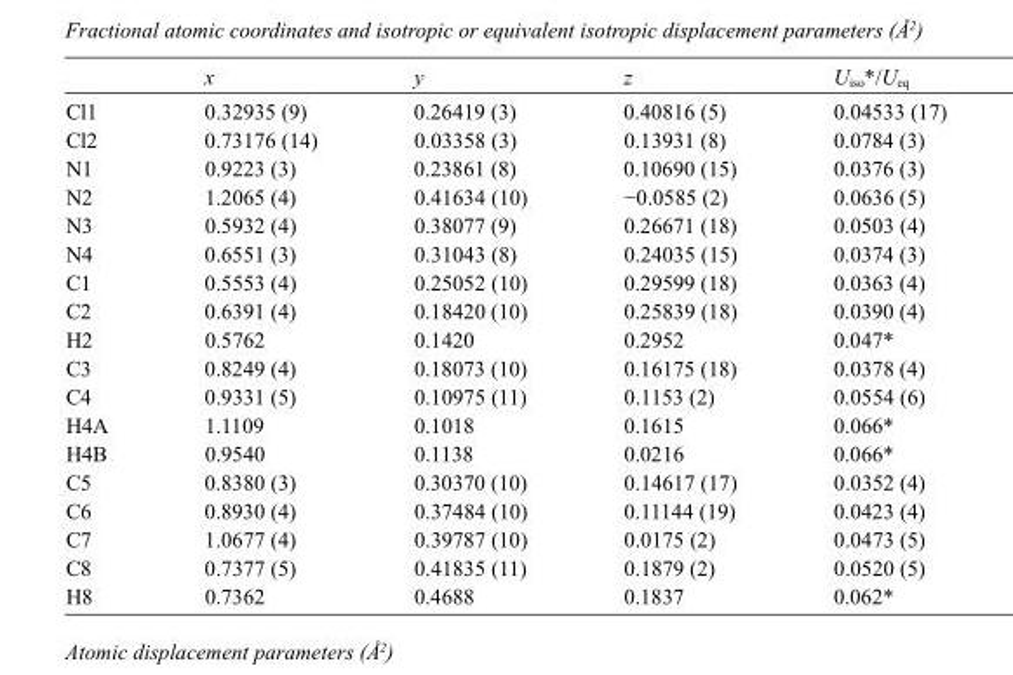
<table><thead><tr><td></td><td>x</td><td>y</td><td>z</td><td>U<sub>iso</sub>*/U<sub>eq</sub></td></tr></thead><tbody><tr><td>Cl1</td><td>0.32935 (9)</td><td>0.26419 (3)</td><td>0.40816 (5)</td><td>0.04533 (17)</td></tr><tr><td>Cl2</td><td>0.73176 (14)</td><td>0.03358 (3)</td><td>0.13931 (8)</td><td>0.0784 (3)</td></tr><tr><td>N1</td><td>0.9223 (3)</td><td>0.23861 (8)</td><td>0.10690 (15)</td><td>0.0376 (3)</td></tr><tr><td>N2</td><td>1.2065 (4)</td><td>0.41634 (10)</td><td>−0.0585 (2)</td><td>0.0636 (5)</td></tr><tr><td>N3</td><td>0.5932 (4)</td><td>0.38077 (9)</td><td>0.26671 (18)</td><td>0.0503 (4)</td></tr><tr><td>N4</td><td>0.6551 (3)</td><td>0.31043 (8)</td><td>0.24035 (15)</td><td>0.0374 (3)</td></tr><tr><td>C1</td><td>0.5553 (4)</td><td>0.25052 (10)</td><td>0.29599 (18)</td><td>0.0363 (4)</td></tr><tr><td>C2</td><td>0.6391 (4)</td><td>0.18420 (10)</td><td>0.25839 (18)</td><td>0.0390 (4)</td></tr><tr><td>H2</td><td>0.5762</td><td>0.1420</td><td>0.2952</td><td>0.047*</td></tr><tr><td>C3</td><td>0.8249 (4)</td><td>0.18073 (10)</td><td>0.16175 (18)</td><td>0.0378 (4)</td></tr><tr><td>C4</td><td>0.9331 (5)</td><td>0.10975 (11)</td><td>0.1153 (2)</td><td>0.0554 (6)</td></tr><tr><td>H4A</td><td>1.1109</td><td>0.1018</td><td>0.1615</td><td>0.066*</td></tr><tr><td>H4B</td><td>0.9540</td><td>0.1138</td><td>0.0216</td><td>0.066*</td></tr><tr><td>C5</td><td>0.8380 (3)</td><td>0.30370 (10)</td><td>0.14617 (17)</td><td>0.0352 (4)</td></tr><tr><td>C6</td><td>0.8930 (4)</td><td>0.37484 (10)</td><td>0.11144 (19)</td><td>0.0423 (4)</td></tr><tr><td>C7</td><td>1.0677 (4)</td><td>0.39787 (10)</td><td>0.0175 (2)</td><td>0.0473 (5)</td></tr><tr><td>C8</td><td>0.7377 (5)</td><td>0.41835 (11)</td><td>0.1879 (2)</td><td>0.0520 (5)</td></tr><tr><td>H8</td><td>0.7362</td><td>0.4688</td><td>0.1837</td><td>0.062*</td></tr></tbody></table>